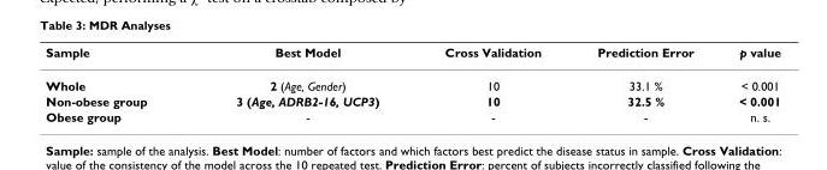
<table><thead><tr><td>Sample</td><td>Best Model</td><td>Cross Validation</td><td>Prediction Error</td><td>p value</td></tr></thead><tbody><tr><td>Whole</td><td>2 (Age, Gender)</td><td>10</td><td>33.1 %</td><td>&lt; 0.001</td></tr><tr><td>Non-obese group</td><td>3 (Age, ADRB2-16, UCP3)</td><td>10</td><td>32.5 %</td><td>&lt; 0.001</td></tr><tr><td>Obese group</td><td>-</td><td>-</td><td>-</td><td>n. s.</td></tr></tbody></table>